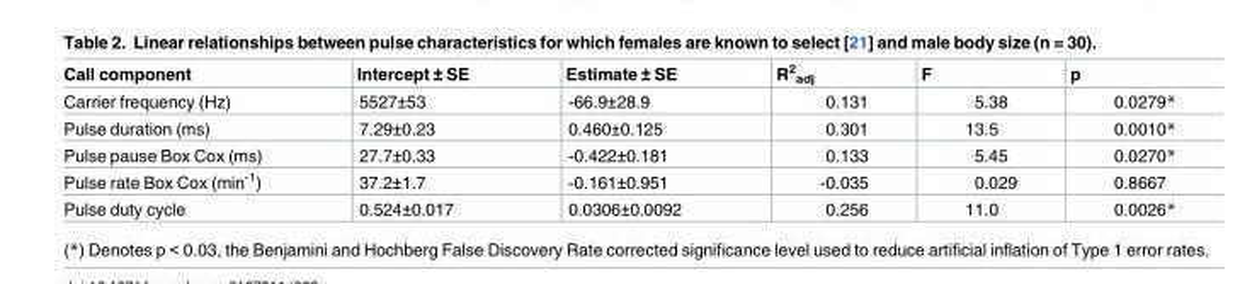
<table><thead><tr><td>Call component</td><td>Intercept ± SE</td><td>Estimate ± SE</td><td>R<sup>2</sup> <sub>adj</sub></td><td>F</td><td>p</td></tr></thead><tbody><tr><td>Carrier frequency (Hz)</td><td>5527±53</td><td>-66.9±28.9</td><td>0.131</td><td>5.38</td><td>0.0279*</td></tr><tr><td>Pulse duration (ms)</td><td>7.29±0.23</td><td>0.460±0.125</td><td>0.301</td><td>13.5</td><td>0.0010*</td></tr><tr><td>Pulse pause Box Cox (ms)</td><td>27.7±0.33</td><td>-0.422±0.181</td><td>0.133</td><td>5.45</td><td>0.0270*</td></tr><tr><td>Pulse rate Box Cox (min<sup>-1</sup>)</td><td>37.2±1.7</td><td>-0.161±0.951</td><td>-0.035</td><td>0.029</td><td>0.8667</td></tr><tr><td>Pulse duty cycle</td><td>0.524±0.017</td><td>0.0306±0.0092</td><td>0.256</td><td>11.0</td><td>0.0026*</td></tr></tbody></table>